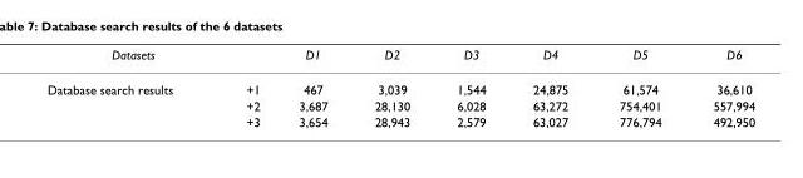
<table><thead><tr><td colspan="2">Datasets</td><td rowspan="2">D1 467</td><td rowspan="2">D2 3,039</td><td rowspan="2">D3 1,544</td><td rowspan="2">D4 24,875</td><td rowspan="2">D5 61,574</td><td rowspan="2">D6 36,610</td></tr><tr><td>Database search results</td><td>+1</td></tr></thead><tbody><tr><td></td><td>+2</td><td>3,687</td><td>28,130</td><td>6,028</td><td>63,272</td><td>754,401</td><td>557,994</td></tr><tr><td></td><td>+3</td><td>3,654</td><td>28,943</td><td>2,579</td><td>63,027</td><td>776,794</td><td>492,950</td></tr></tbody></table>